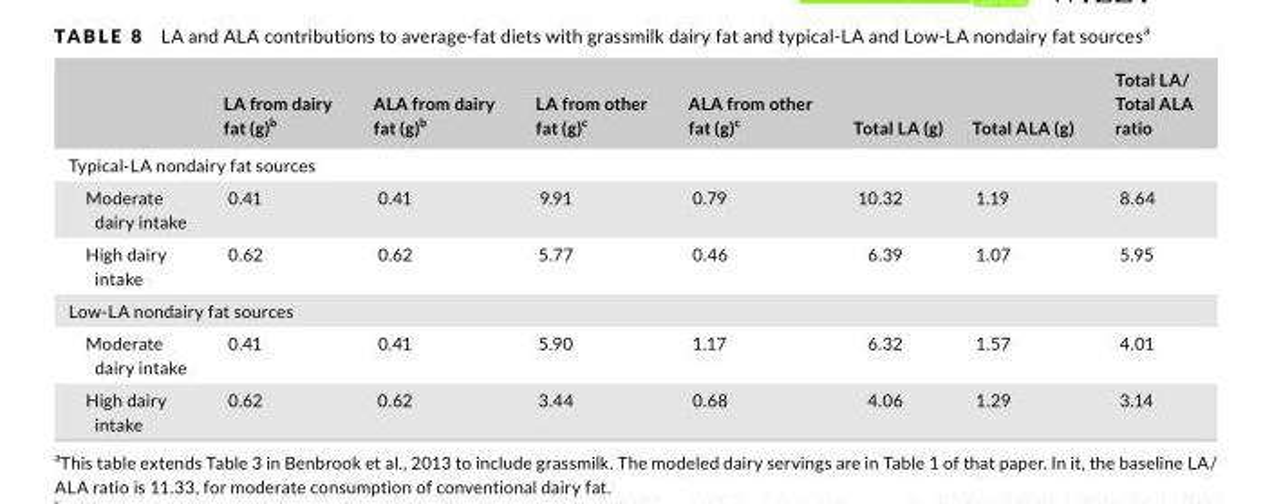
<table><thead><tr><td></td><td>LA from dairy fat (g)<sup>b</sup></td><td>ALA from dairy fat (g)<sup>b</sup></td><td>LA from other fat (g)<sup>c</sup></td><td>ALA from other fat (g)<sup>c</sup></td><td>Total LA (g)</td><td>Total ALA (g)</td><td>Total LA/ Total ALA ratio</td></tr></thead><tbody><tr><td colspan="8">Typical- LA nondairy fat sources</td></tr><tr><td>Moderate dairy intake</td><td>0.41</td><td>0.41</td><td>9.91</td><td>0.79</td><td>10.32</td><td>1.19</td><td>8.64</td></tr><tr><td>High dairy intake</td><td>0.62</td><td>0.62</td><td>5.77</td><td>0.46</td><td>6.39</td><td>1.07</td><td>5.95</td></tr><tr><td colspan="8">Low- LA nondairy fat sources</td></tr><tr><td>Moderate dairy intake</td><td>0.41</td><td>0.41</td><td>5.90</td><td>1.17</td><td>6.32</td><td>1.57</td><td>4.01</td></tr><tr><td>High dairy intake</td><td>0.62</td><td>0.62</td><td>3.44</td><td>0.68</td><td>4.06</td><td>1.29</td><td>3.14</td></tr></tbody></table>